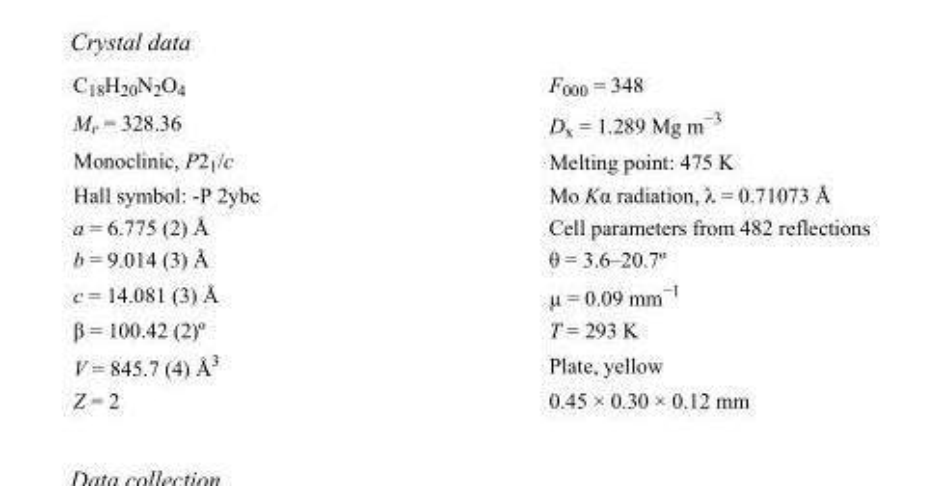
<table><tbody><tr><td>C<sub>18</sub>H<sub>20</sub>N<sub>2</sub>O<sub>4</sub></td><td>F000 = 348</td></tr><tr><td>M<sub>r</sub> = 328.36</td><td>D<sub>x</sub> = 1.289 Mg m<sup>−3</sup></td></tr><tr><td>Monoclinic, P2<sub>1</sub>/c</td><td>Melting point: 475 K</td></tr><tr><td>Hall symbol: -P 2ybc</td><td>Mo Kα radiation, λ = 0.71073 Å</td></tr><tr><td>a = 6.775 (2) Å</td><td>Cell parameters from 482 reflections</td></tr><tr><td>b = 9.014 (3) Å</td><td>θ = 3.6–20.7º</td></tr><tr><td>c = 14.081 (3) Å</td><td>µ = 0.09 mm<sup>−1</sup></td></tr><tr><td>β = 100.42 (2)º</td><td>T = 293 K</td></tr><tr><td>V = 845.7 (4) Å<sup>3</sup></td><td>Plate, yellow</td></tr><tr><td>Z = 2</td><td>0.45 × 0.30 × 0.12 mm</td></tr></tbody></table>